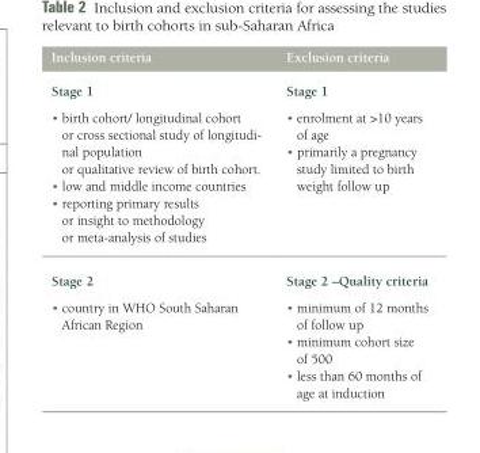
<table><thead><tr><td>Inclusion criteria</td><td>Exclusion criteria</td></tr></thead><tbody><tr><td>Stage 1 • birth cohort/ longitudinal cohort or cross sectional study of longitudi- nal population or qualitative review of birth cohort. • low and middle income countries • reporting primary results or insight to methodology or meta-analysis of studies</td><td>Stage 1 • enrolment at &gt;10 years of age • primarily a pregnancy study limited to birth weight follow up</td></tr><tr><td>Stage 2 • country in WHO South Saharan African Region</td><td>Stage 2 –Quality criteria • minimum of 12 months of follow up • minimum cohort size of 500 • less than 60 months of age at induction</td></tr></tbody></table>